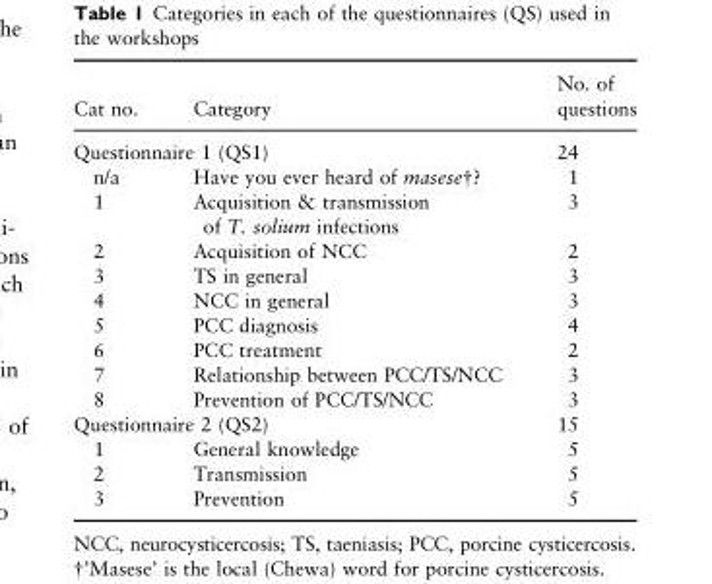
<table><thead><tr><td>Cat no.</td><td>Category</td><td>No. of questions</td></tr></thead><tbody><tr><td colspan="2">Questionnaire 1 (QS1)</td><td>24</td></tr><tr><td>n/a</td><td>Have you ever heard of masese†?</td><td>1</td></tr><tr><td>1</td><td>Acquisition &amp; transmission of T. solium infections</td><td>3</td></tr><tr><td>2</td><td>Acquisition of NCC</td><td>2</td></tr><tr><td>3</td><td>TS in general</td><td>3</td></tr><tr><td>4</td><td>NCC in general</td><td>3</td></tr><tr><td>5</td><td>PCC diagnosis</td><td>4</td></tr><tr><td>6</td><td>PCC treatment</td><td>2</td></tr><tr><td>7</td><td>Relationship between PCC/TS/NCC</td><td>3</td></tr><tr><td>8</td><td>Prevention of PCC/TS/NCC</td><td>3</td></tr><tr><td colspan="2">Questionnaire 2 (QS2)</td><td>15</td></tr><tr><td>1</td><td>General knowledge</td><td>5</td></tr><tr><td>2</td><td>Transmission</td><td>5</td></tr><tr><td>3</td><td>Prevention</td><td>5</td></tr></tbody></table>